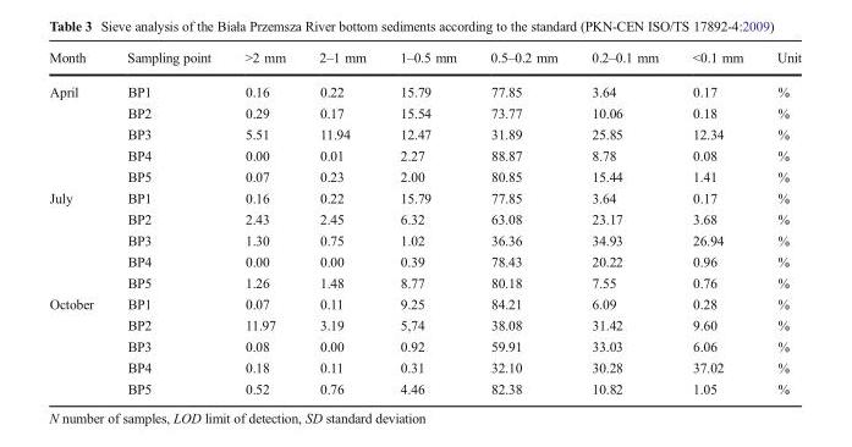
<table><thead><tr><td>Month</td><td>Sampling point</td><td>&gt;2 mm</td><td>2–1 mm</td><td>1–0.5 mm</td><td>0.5–0.2 mm</td><td>0.2–0.1 mm</td><td>&lt;0.1 mm</td><td>Unit</td></tr></thead><tbody><tr><td rowspan="5">April</td><td>BP1</td><td>0.16</td><td>0.22</td><td>15.79</td><td>77.85</td><td>3.64</td><td>0.17</td><td>%</td></tr><tr><td>BP2</td><td>0.29</td><td>0.17</td><td>15.54</td><td>73.77</td><td>10.06</td><td>0.18</td><td>%</td></tr><tr><td>BP3</td><td>5.51</td><td>11.94</td><td>12.47</td><td>31.89</td><td>25.85</td><td>12.34</td><td>%</td></tr><tr><td>BP4</td><td>0.00</td><td>0.01</td><td>2.27</td><td>88.87</td><td>8.78</td><td>0.08</td><td>%</td></tr><tr><td>BP5</td><td>0.07</td><td>0.23</td><td>2.00</td><td>80.85</td><td>15.44</td><td>1.41</td><td>%</td></tr><tr><td rowspan="5">July</td><td>BP1</td><td>0.16</td><td>0.22</td><td>15.79</td><td>77.85</td><td>3.64</td><td>0.17</td><td>%</td></tr><tr><td>BP2</td><td>2.43</td><td>2.45</td><td>6.32</td><td>63.08</td><td>23.17</td><td>3.68</td><td>%</td></tr><tr><td>BP3</td><td>1.30</td><td>0.75</td><td>1.02</td><td>36.36</td><td>34.93</td><td>26.94</td><td>%</td></tr><tr><td>BP4</td><td>0.00</td><td>0.00</td><td>0.39</td><td>78.43</td><td>20.22</td><td>0.96</td><td>%</td></tr><tr><td>BP5</td><td>1.26</td><td>1.48</td><td>8.77</td><td>80.18</td><td>7.55</td><td>0.76</td><td>%</td></tr><tr><td rowspan="5">October</td><td>BP1</td><td>0.07</td><td>0.11</td><td>9.25</td><td>84.21</td><td>6.09</td><td>0.28</td><td>%</td></tr><tr><td>BP2</td><td>11.97</td><td>3.19</td><td>5,74</td><td>38.08</td><td>31.42</td><td>9.60</td><td>%</td></tr><tr><td>BP3</td><td>0.08</td><td>0.00</td><td>0.92</td><td>59.91</td><td>33.03</td><td>6.06</td><td>%</td></tr><tr><td>BP4</td><td>0.18</td><td>0.11</td><td>0.31</td><td>32.10</td><td>30.28</td><td>37.02</td><td>%</td></tr><tr><td>BP5</td><td>0.52</td><td>0.76</td><td>4.46</td><td>82.38</td><td>10.82</td><td>1.05</td><td>%</td></tr></tbody></table>